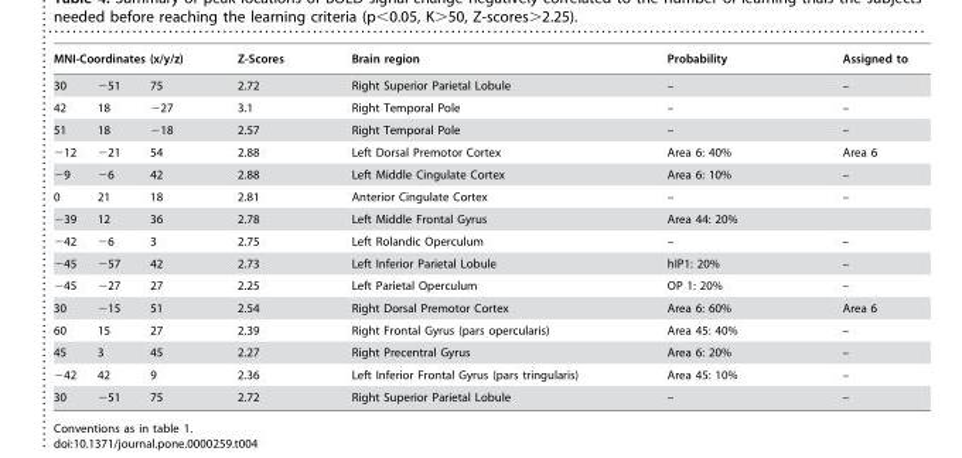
<table><thead><tr><td colspan="3">MNI-Coordinates (x/y/z)</td><td rowspan="2">Z-Scores 2.72</td><td rowspan="2">Brain region Right Superior Parietal Lobule</td><td rowspan="2">Probability –</td><td rowspan="2">Assigned to –</td></tr><tr><td>30</td><td>−51</td><td>75</td></tr></thead><tbody><tr><td>42</td><td>18</td><td>−27</td><td>3.1</td><td>Right Temporal Pole</td><td>–</td><td>–</td></tr><tr><td>51</td><td>18</td><td>−18</td><td>2.57</td><td>Right Temporal Pole</td><td>–</td><td>–</td></tr><tr><td>−12</td><td>−21</td><td>54</td><td>2.88</td><td>Left Dorsal Premotor Cortex</td><td>Area 6: 40%</td><td>Area 6</td></tr><tr><td>−9</td><td>−6</td><td>42</td><td>2.88</td><td>Left Middle Cingulate Cortex</td><td>Area 6: 10%</td><td>–</td></tr><tr><td>0</td><td>21</td><td>18</td><td>2.81</td><td>Anterior Cingulate Cortex</td><td>–</td><td>–</td></tr><tr><td>−39</td><td>12</td><td>36</td><td>2.78</td><td>Left Middle Frontal Gyrus</td><td>Area 44: 20%</td><td></td></tr><tr><td>−42</td><td>−6</td><td>3</td><td>2.75</td><td>Left Rolandic Operculum</td><td>–</td><td>–</td></tr><tr><td>−45</td><td>−57</td><td>42</td><td>2.73</td><td>Left Inferior Parietal Lobule</td><td>hIP1: 20%</td><td>–</td></tr><tr><td>−45</td><td>−27</td><td>27</td><td>2.25</td><td>Left Parietal Operculum</td><td>OP 1: 20%</td><td>–</td></tr><tr><td>30</td><td>−15</td><td>51</td><td>2.54</td><td>Right Dorsal Premotor Cortex</td><td>Area 6: 60%</td><td>Area 6</td></tr><tr><td>60</td><td>15</td><td>27</td><td>2.39</td><td>Right Frontal Gyrus (pars opercularis)</td><td>Area 45: 40%</td><td>–</td></tr><tr><td>45</td><td>3</td><td>45</td><td>2.27</td><td>Right Precentral Gyrus</td><td>Area 6: 20%</td><td>–</td></tr><tr><td>−42</td><td>42</td><td>9</td><td>2.36</td><td>Left Inferior Frontal Gyrus (pars tringularis)</td><td>Area 45: 10%</td><td>–</td></tr><tr><td>30</td><td>−51</td><td>75</td><td>2.72</td><td>Right Superior Parietal Lobule</td><td>–</td><td>–</td></tr></tbody></table>